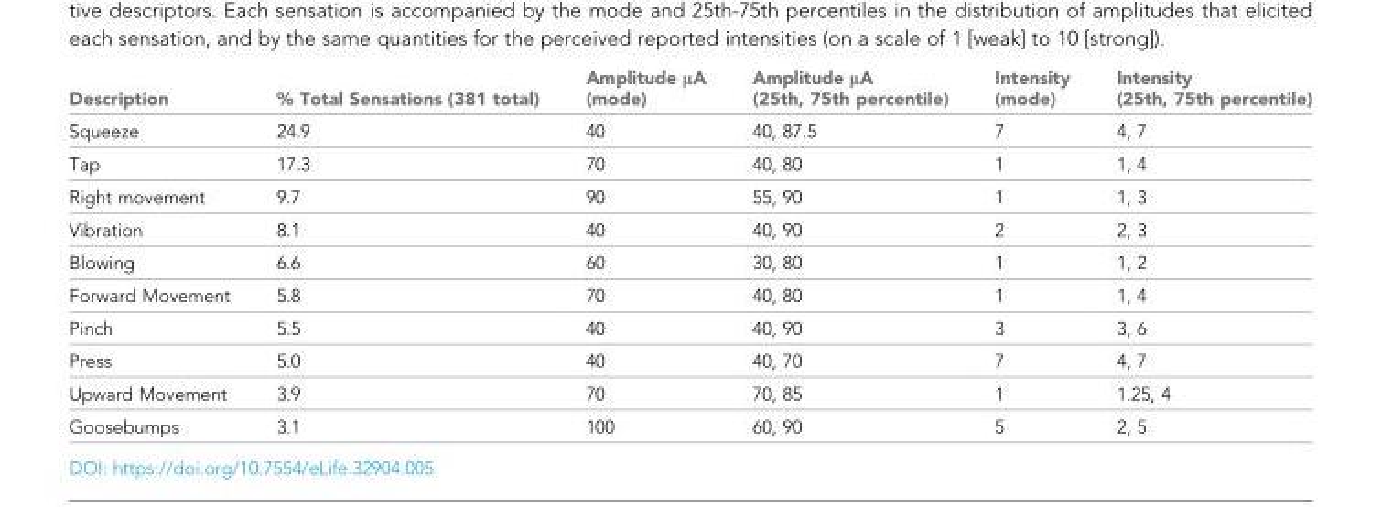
<table><thead><tr><td>Description</td><td>% Total Sensations (381 total)</td><td>Amplitude μA (mode)</td><td>Amplitude μA (25th, 75th percentile)</td><td>Intensity (mode)</td><td>Intensity (25th, 75th percentile)</td></tr></thead><tbody><tr><td>Squeeze</td><td>24.9</td><td>40</td><td>40, 87.5</td><td>7</td><td>4, 7</td></tr><tr><td>Tap</td><td>17.3</td><td>70</td><td>40, 80</td><td>1</td><td>1, 4</td></tr><tr><td>Right movement</td><td>9.7</td><td>90</td><td>55, 90</td><td>1</td><td>1, 3</td></tr><tr><td>Vibration</td><td>8.1</td><td>40</td><td>40, 90</td><td>2</td><td>2, 3</td></tr><tr><td>Blowing</td><td>6.6</td><td>60</td><td>30, 80</td><td>1</td><td>1, 2</td></tr><tr><td>Forward Movement</td><td>5.8</td><td>70</td><td>40, 80</td><td>1</td><td>1, 4</td></tr><tr><td>Pinch</td><td>5.5</td><td>40</td><td>40, 90</td><td>3</td><td>3, 6</td></tr><tr><td>Press</td><td>5.0</td><td>40</td><td>40, 70</td><td>7</td><td>4, 7</td></tr><tr><td>Upward Movement</td><td>3.9</td><td>70</td><td>70, 85</td><td>1</td><td>1.25, 4</td></tr><tr><td>Goosebumps</td><td>3.1</td><td>100</td><td>60, 90</td><td>5</td><td>2, 5</td></tr></tbody></table>